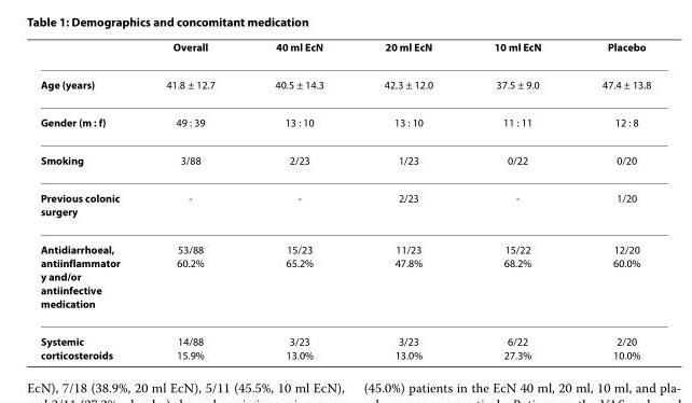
<table><thead><tr><td></td><td>Overall</td><td>40 ml EcN</td><td>20 ml EcN</td><td>10 ml EcN</td><td>Placebo</td></tr></thead><tbody><tr><td>Age (years)</td><td>41.8 ± 12.7</td><td>40.5 ± 14.3</td><td>42.3 ± 12.0</td><td>37.5 ± 9.0</td><td>47.4 ± 13.8</td></tr><tr><td>Gender (m : f)</td><td>49 : 39</td><td>13 : 10</td><td>13 : 10</td><td>11 : 11</td><td>12 : 8</td></tr><tr><td>Smoking</td><td>3/88</td><td>2/23</td><td>1/23</td><td>0/22</td><td>0/20</td></tr><tr><td>Previous colonic surgery</td><td>-</td><td>-</td><td>2/23</td><td>-</td><td>1/20</td></tr><tr><td>Antidiarrhoeal, antiinflammator y and/or antiinfective medication</td><td>53/88 60.2%</td><td>15/23 65.2%</td><td>11/23 47.8%</td><td>15/22 68.2%</td><td>12/20 60.0%</td></tr><tr><td>Systemic corticosteroids</td><td>14/88 15.9%</td><td>3/23 13.0%</td><td>3/23 13.0%</td><td>6/22 27.3%</td><td>2/20 10.0%</td></tr></tbody></table>